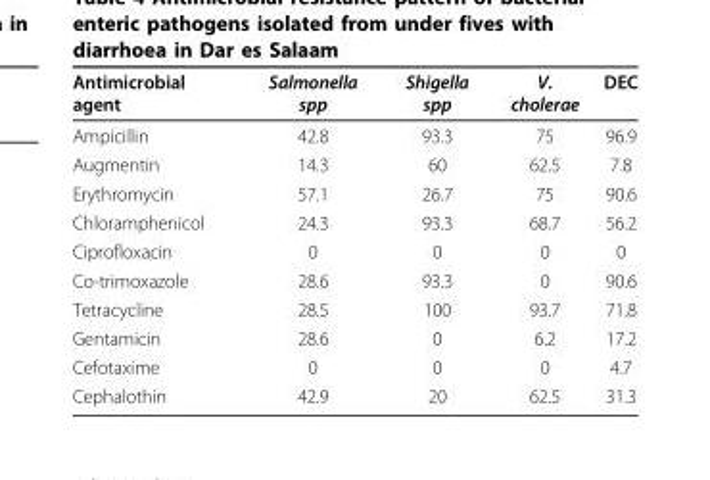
<table><thead><tr><td>Antimicrobial agent</td><td>Salmonella spp</td><td>Shigella spp</td><td>V. cholerae</td><td>DEC</td></tr></thead><tbody><tr><td>Ampicillin</td><td>42.8</td><td>93.3</td><td>75</td><td>96.9</td></tr><tr><td>Augmentin</td><td>14.3</td><td>60</td><td>62.5</td><td>7.8</td></tr><tr><td>Erythromycin</td><td>57.1</td><td>26.7</td><td>75</td><td>90.6</td></tr><tr><td>Chloramphenicol</td><td>24.3</td><td>93.3</td><td>68.7</td><td>56.2</td></tr><tr><td>Ciprofloxacin</td><td>0</td><td>0</td><td>0</td><td>0</td></tr><tr><td>Co-trimoxazole</td><td>28.6</td><td>93.3</td><td>0</td><td>90.6</td></tr><tr><td>Tetracycline</td><td>28.5</td><td>100</td><td>93.7</td><td>71.8</td></tr><tr><td>Gentamicin</td><td>28.6</td><td>0</td><td>6.2</td><td>17.2</td></tr><tr><td>Cefotaxime</td><td>0</td><td>0</td><td>0</td><td>4.7</td></tr><tr><td>Cephalothin</td><td>42.9</td><td>20</td><td>62.5</td><td>31.3</td></tr></tbody></table>